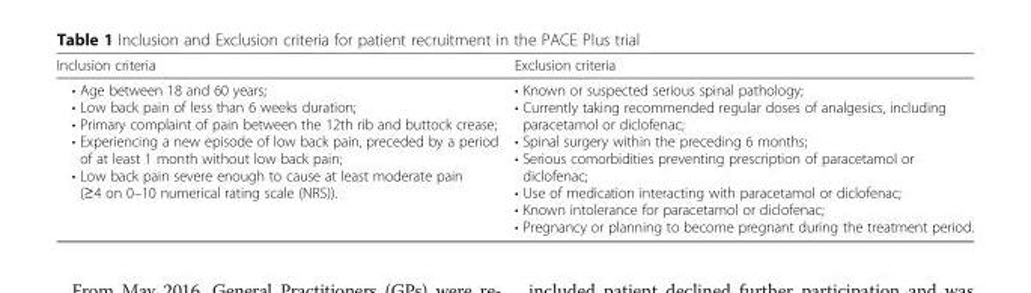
<table><thead><tr><td>Inclusion criteria</td><td>Exclusion criteria</td></tr></thead><tbody><tr><td>• Age between 18 and 60 years; • Low back pain of less than 6 weeks duration; • Primary complaint of pain between the 12th rib and buttock crease; • Experiencing a new episode of low back pain, preceded by a period of at least 1 month without low back pain; • Low back pain severe enough to cause at least moderate pain (≥4 on 0–10 numerical rating scale (NRS)).</td><td>• Known or suspected serious spinal pathology; • Currently taking recommended regular doses of analgesics, including paracetamol or diclofenac; • Spinal surgery within the preceding 6 months; • Serious comorbidities preventing prescription of paracetamol or diclofenac; • Use of medication interacting with paracetamol or diclofenac; • Known intolerance for paracetamol or diclofenac; • Pregnancy or planning to become pregnant during the treatment period.</td></tr></tbody></table>